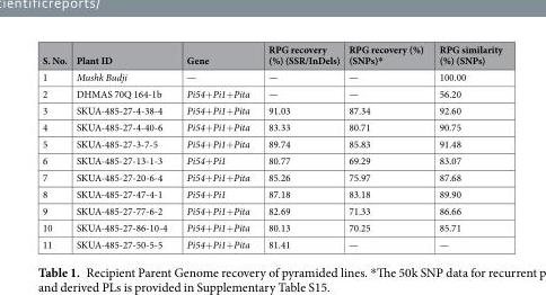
<table><thead><tr><td>S. No.</td><td>Plant ID</td><td>Gene</td><td>RPG recovery (%) (SSR/InDels)</td><td>RPG recovery (%) (SNPs)*</td><td>RPG similarity (%) (SNPs)</td></tr></thead><tbody><tr><td>1</td><td>Mushk Budji</td><td>—</td><td>—</td><td>—</td><td>100.00</td></tr><tr><td>2</td><td>DHMAS 70Q 164-1b</td><td>Pi54+Pi1+Pita</td><td>—</td><td>—</td><td>56.20</td></tr><tr><td>3</td><td>SKUA-485-27-4-38-4</td><td>Pi54+Pi1+Pita</td><td>91.03</td><td>87.34</td><td>92.60</td></tr><tr><td>4</td><td>SKUA-485-27-4-40-6</td><td>Pi54+Pi1+Pita</td><td>83.33</td><td>80.71</td><td>90.75</td></tr><tr><td>5</td><td>SKUA-485-27-3-7-5</td><td>Pi54+Pi1+Pita</td><td>89.74</td><td>85.83</td><td>91.48</td></tr><tr><td>6</td><td>SKUA-485-27-13-1-3</td><td>Pi54+Pi1</td><td>80.77</td><td>69.29</td><td>83.07</td></tr><tr><td>7</td><td>SKUA-485-27-20-6-4</td><td>Pi54+Pi1+Pita</td><td>85.26</td><td>75.97</td><td>87.68</td></tr><tr><td>8</td><td>SKUA-485-27-47-4-1</td><td>Pi54+Pi1</td><td>87.18</td><td>83.18</td><td>89.90</td></tr><tr><td>9</td><td>SKUA-485-27-77-6-2</td><td>Pi54+Pi1+Pita</td><td>82.69</td><td>71.33</td><td>86.66</td></tr><tr><td>10</td><td>SKUA-485-27-86-10-4</td><td>Pi54+Pi1+Pita</td><td>80.13</td><td>70.25</td><td>85.71</td></tr><tr><td>11</td><td>SKUA-485-27-50-5-5</td><td>Pi54+Pi1+Pita</td><td>81.41</td><td>—</td><td>—</td></tr></tbody></table>